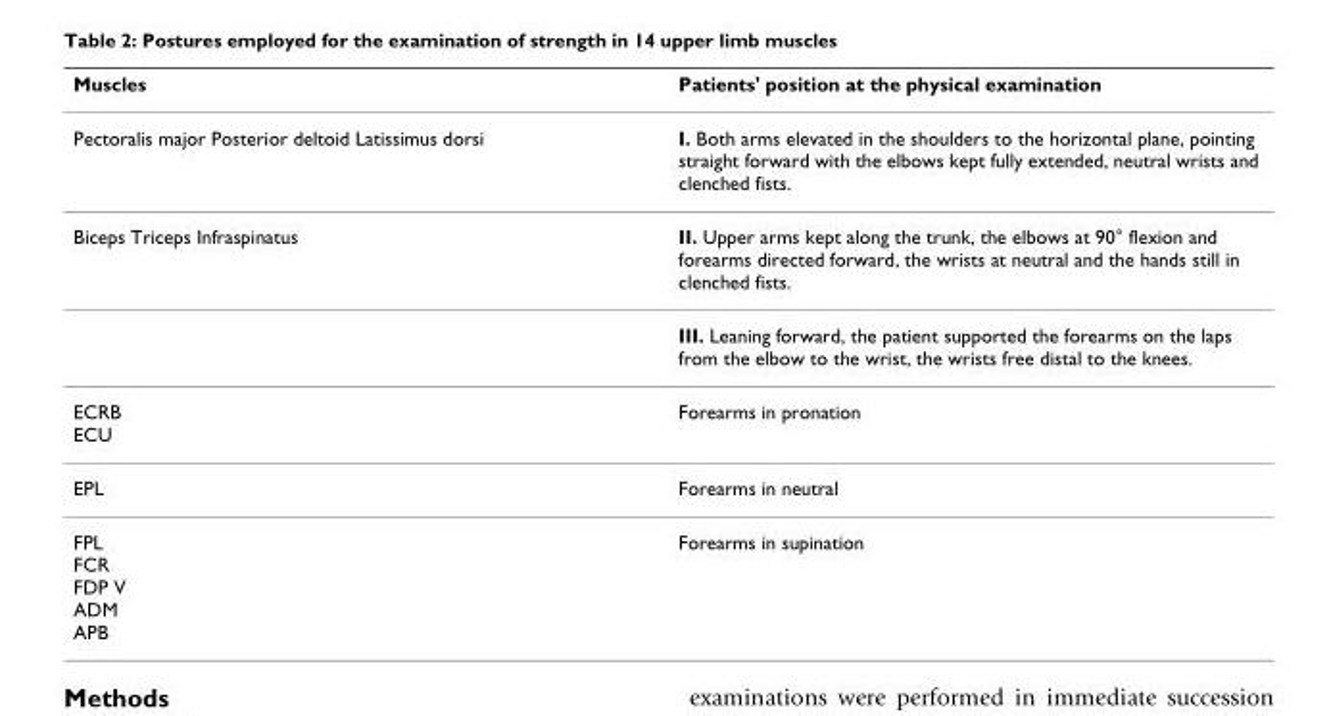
<table><thead><tr><td>Muscles</td><td>Patients&#x27; position at the physical examination</td></tr></thead><tbody><tr><td>Pectoralis major Posterior deltoid Latissimus dorsi</td><td>I. Both arms elevated in the shoulders to the horizontal plane, pointing straight forward with the elbows kept fully extended, neutral wrists and clenched fists.</td></tr><tr><td rowspan="2">Biceps Triceps Infraspinatus</td><td>II. Upper arms kept along the trunk, the elbows at 90° flexion and forearms directed forward, the wrists at neutral and the hands still in clenched fists.</td></tr><tr><td>III. Leaning forward, the patient supported the forearms on the laps from the elbow to the wrist, the wrists free distal to the knees.</td></tr><tr><td>ECRB ECU</td><td>Forearms in pronation</td></tr><tr><td>EPL</td><td>Forearms in neutral</td></tr><tr><td>FPL FCR FDP V ADM APB</td><td>Forearms in supination</td></tr></tbody></table>